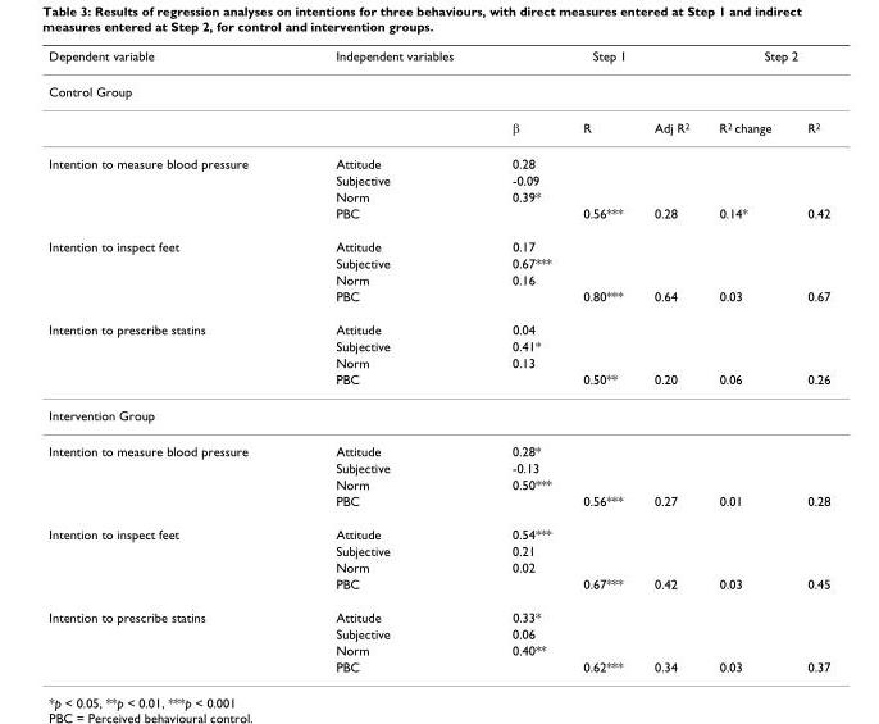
<table><thead><tr><td>Dependent variable</td><td>Independent variables</td><td colspan="3">Step 1</td><td colspan="2">Step 2</td></tr><tr><td colspan="7">Control Group</td></tr><tr><td></td><td></td><td>β</td><td>R</td><td>Adj R<sup>2</sup></td><td>R<sup>2</sup> change</td><td>R<sup>2</sup></td></tr></thead><tbody><tr><td rowspan="4">Intention to measure blood pressure</td><td>Attitude</td><td>0.28</td><td></td><td></td><td></td><td></td></tr><tr><td>Subjective</td><td>-0.09</td><td></td><td></td><td></td><td></td></tr><tr><td>Norm</td><td>0.39*</td><td></td><td></td><td></td><td></td></tr><tr><td>PBC</td><td></td><td>0.56***</td><td>0.28</td><td>0.14*</td><td>0.42</td></tr><tr><td rowspan="4">Intention to inspect feet</td><td>Attitude</td><td>0.17</td><td></td><td></td><td></td><td></td></tr><tr><td>Subjective</td><td>0.67***</td><td></td><td></td><td></td><td></td></tr><tr><td>Norm</td><td>0.16</td><td></td><td></td><td></td><td></td></tr><tr><td>PBC</td><td></td><td>0.80***</td><td>0.64</td><td>0.03</td><td>0.67</td></tr><tr><td rowspan="4">Intention to prescribe statins</td><td>Attitude</td><td>0.04</td><td></td><td></td><td></td><td></td></tr><tr><td>Subjective</td><td>0.41*</td><td></td><td></td><td></td><td></td></tr><tr><td>Norm</td><td>0.13</td><td></td><td></td><td></td><td></td></tr><tr><td>PBC</td><td></td><td>0.50**</td><td>0.20</td><td>0.06</td><td>0.26</td></tr><tr><td colspan="7">Intervention Group</td></tr><tr><td rowspan="4">Intention to measure blood pressure</td><td>Attitude</td><td>0.28*</td><td></td><td></td><td></td><td></td></tr><tr><td>Subjective</td><td>-0.13</td><td></td><td></td><td></td><td></td></tr><tr><td>Norm</td><td>0.50***</td><td></td><td></td><td></td><td></td></tr><tr><td>PBC</td><td></td><td>0.56***</td><td>0.27</td><td>0.01</td><td>0.28</td></tr><tr><td rowspan="4">Intention to inspect feet</td><td>Attitude</td><td>0.54***</td><td></td><td></td><td></td><td></td></tr><tr><td>Subjective</td><td>0.21</td><td></td><td></td><td></td><td></td></tr><tr><td>Norm</td><td>0.02</td><td></td><td></td><td></td><td></td></tr><tr><td>PBC</td><td></td><td>0.67***</td><td>0.42</td><td>0.03</td><td>0.45</td></tr><tr><td rowspan="4">Intention to prescribe statins</td><td>Attitude</td><td>0.33*</td><td></td><td></td><td></td><td></td></tr><tr><td>Subjective</td><td>0.06</td><td></td><td></td><td></td><td></td></tr><tr><td>Norm</td><td>0.40**</td><td></td><td></td><td></td><td></td></tr><tr><td>PBC</td><td></td><td>0.62***</td><td>0.34</td><td>0.03</td><td>0.37</td></tr></tbody></table>